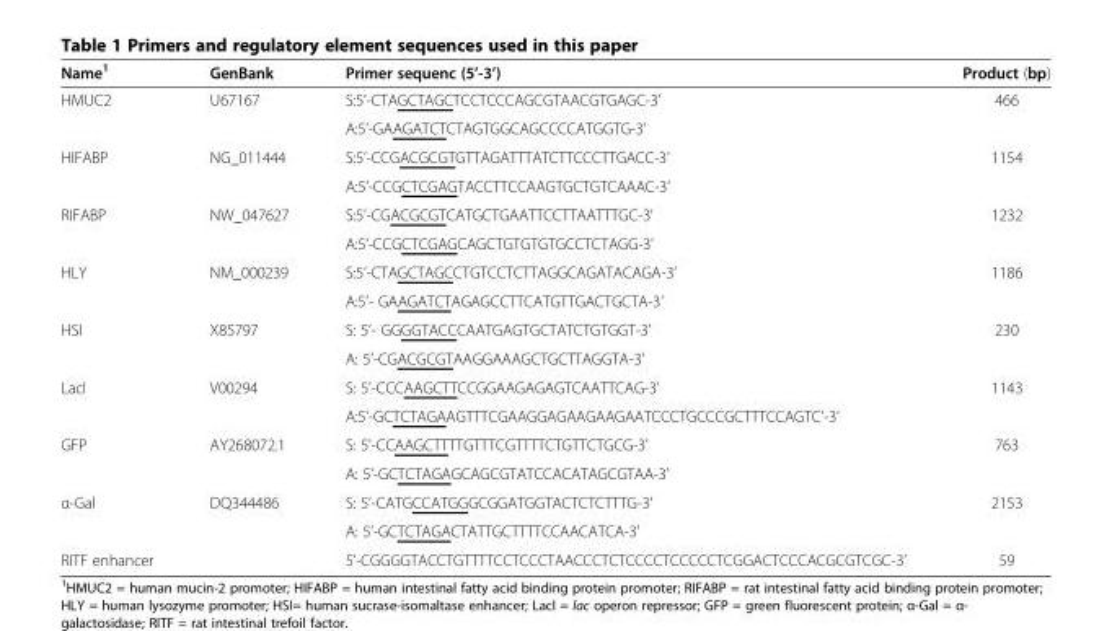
<table><thead><tr><td>Name<sup>1</sup></td><td>GenBank</td><td>Primer sequenc (5’-3’)</td><td>Product (bp)</td></tr></thead><tbody><tr><td rowspan="2">HMUC2</td><td rowspan="2">U67167</td><td>S:5’-CTAGCTAGCTCCTCCCAGCGTAACGTGAGC-3’</td><td rowspan="2">466</td></tr><tr><td>A:5’-GAAGATCTCTAGTGGCAGCCCCATGGTG-3’</td></tr><tr><td rowspan="2">HIFABP</td><td rowspan="2">NG_011444</td><td>S:5’-CCGACGCGTGTTAGATTTATCTTCCCTTGACC-3’</td><td rowspan="2">1154</td></tr><tr><td>A:5’-CCGCTCGAGTACCTTCCAAGTGCTGTCAAAC-3’</td></tr><tr><td rowspan="2">RIFABP</td><td rowspan="2">NW_047627</td><td>S:5’-CGACGCGTCATGCTGAATTCCTTAATTTGC-3’</td><td rowspan="2">1232</td></tr><tr><td>A:5’-CCGCTCGAGCAGCTGTGTGTGCCTCTAGG-3’</td></tr><tr><td rowspan="2">HLY</td><td rowspan="2">NM_000239</td><td>S:5’-CTAGCTAGCCTGTCCTCTTAGGCAGATACAGA-3’</td><td rowspan="2">1186</td></tr><tr><td>A:5’- GAAGATCTAGAGCCTTCATGTTGACTGCTA-3’</td></tr><tr><td rowspan="2">HSI</td><td rowspan="2">X85797</td><td>S: 5’- GGGGTACCCAATGAGTGCTATCTGTGGT-3’</td><td rowspan="2">230</td></tr><tr><td>A: 5’-CGACGCGTAAGGAAAGCTGCTTAGGTA-3’</td></tr><tr><td rowspan="2">LacI</td><td rowspan="2">V00294</td><td>S: 5&#x27;-CCCAAGCTTCCGGAAGAGAGTCAATTCAG-3&#x27;</td><td rowspan="2">1143</td></tr><tr><td>A:5&#x27;-GCTCTAGAAGTTTCGAAGGAGAAGAAGAATCCCTGCCCGCTTTCCAGTC&#x27;-3’</td></tr><tr><td rowspan="2">GFP</td><td rowspan="2">AY268072.1</td><td>S: 5&#x27;-CCAAGCTTTTGTTTCGTTTTCTGTTCTGCG-3&#x27;</td><td rowspan="2">763</td></tr><tr><td>A: 5&#x27;-GCTCTAGAGCAGCGTATCCACATAGCGTAA-3&#x27;</td></tr><tr><td rowspan="2">α-Gal</td><td rowspan="2">DQ344486</td><td>S: 5’-CATGCCATGGGCGGATGGTACTCTCTTTG-3’</td><td rowspan="2">2153</td></tr><tr><td>A: 5’-GCTCTAGACTATTGCTTTTCCAACATCA-3’</td></tr><tr><td>RITF enhancer</td><td></td><td>5’-CGGGGTACCTGTTTTCCTCCCTAACCCTCTCCCCTCCCCCTCGGACTCCCACGCGTCGC-3’</td><td>59</td></tr></tbody></table>